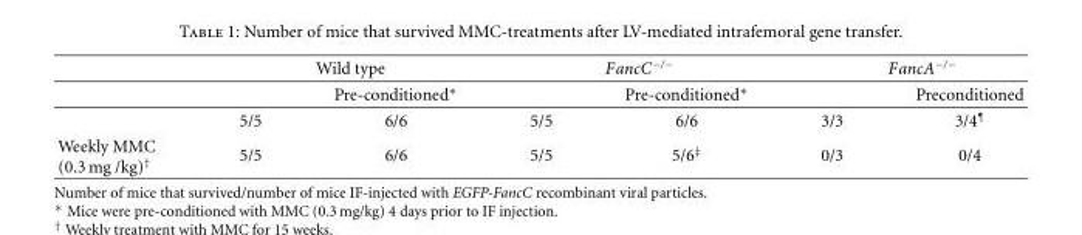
<table><thead><tr><td rowspan="2"></td><td colspan="2">Wild type</td><td colspan="2">FancC−/−</td><td colspan="2">FancA−/−</td></tr><tr><td></td><td>Pre-conditioned∗</td><td></td><td>Pre-conditioned∗</td><td></td><td>Preconditioned</td></tr></thead><tbody><tr><td></td><td>5/5</td><td>6/6</td><td>5/5</td><td>6/6</td><td>3/3</td><td>3/4<sup>¶</sup></td></tr><tr><td>Weekly MMC (0.3 mg /kg)<sup>†</sup></td><td>5/5</td><td>6/6</td><td>5/5</td><td>5/6<sup>‡</sup></td><td>0/3</td><td>0/4</td></tr></tbody></table>